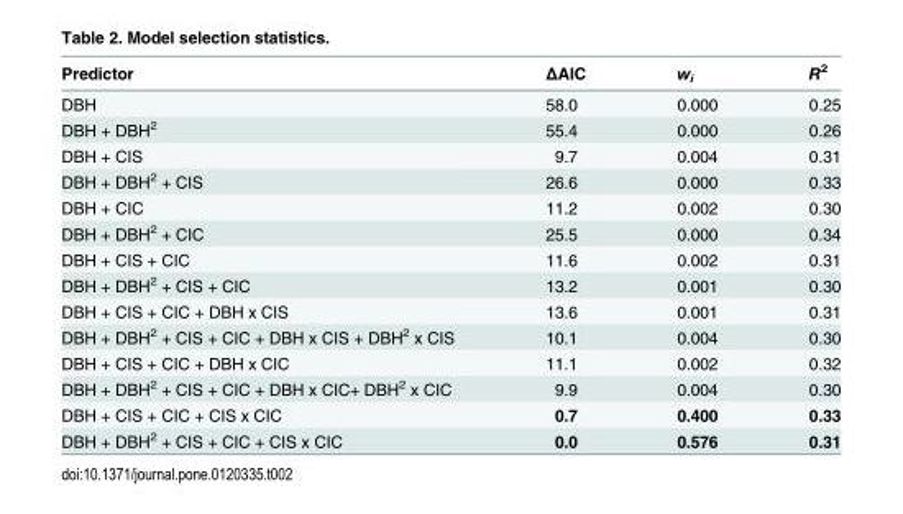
<table><thead><tr><td>Predictor</td><td>ΔAIC</td><td>w<sub>i</sub></td><td>R<sup>2</sup></td></tr></thead><tbody><tr><td>DBH</td><td>58.0</td><td>0.000</td><td>0.25</td></tr><tr><td>DBH + DBH<sup>2</sup></td><td>55.4</td><td>0.000</td><td>0.26</td></tr><tr><td>DBH + CIS</td><td>9.7</td><td>0.004</td><td>0.31</td></tr><tr><td>DBH + DBH<sup>2</sup> + CIS</td><td>26.6</td><td>0.000</td><td>0.33</td></tr><tr><td>DBH + CIC</td><td>11.2</td><td>0.002</td><td>0.30</td></tr><tr><td>DBH + DBH<sup>2</sup> + CIC</td><td>25.5</td><td>0.000</td><td>0.34</td></tr><tr><td>DBH + CIS + CIC</td><td>11.6</td><td>0.002</td><td>0.31</td></tr><tr><td>DBH + DBH<sup>2</sup> + CIS + CIC</td><td>13.2</td><td>0.001</td><td>0.30</td></tr><tr><td>DBH + CIS + CIC + DBH x CIS</td><td>13.6</td><td>0.001</td><td>0.31</td></tr><tr><td>DBH + DBH<sup>2</sup> + CIS + CIC + DBH x CIS + DBH<sup>2</sup> x CIS</td><td>10.1</td><td>0.004</td><td>0.30</td></tr><tr><td>DBH + CIS + CIC + DBH x CIC</td><td>11.1</td><td>0.002</td><td>0.32</td></tr><tr><td>DBH + DBH<sup>2</sup> + CIS + CIC + DBH x CIC+ DBH<sup>2</sup> x CIC</td><td>9.9</td><td>0.004</td><td>0.30</td></tr><tr><td>DBH + CIS + CIC + CIS x CIC</td><td>0.7</td><td>0.400</td><td>0.33</td></tr><tr><td>DBH + DBH<sup>2</sup> + CIS + CIC + CIS x CIC</td><td>0.0</td><td>0.576</td><td>0.31</td></tr></tbody></table>